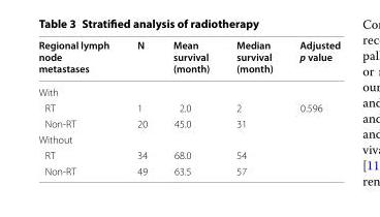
<table><thead><tr><td>Regional lymph node metastases</td><td>N</td><td>Mean survival (month)</td><td>Median survival (month)</td><td>Adjusted p value</td></tr></thead><tbody><tr><td colspan="5">With</td></tr><tr><td>RT</td><td>1</td><td>2.0</td><td>2</td><td rowspan="5">0.596</td></tr><tr><td>Non-RT</td><td>20</td><td>45.0</td><td>31</td></tr><tr><td colspan="4">Without</td></tr><tr><td>RT</td><td>34</td><td>68.0</td><td>54</td></tr><tr><td>Non-RT</td><td>49</td><td>63.5</td><td>57</td></tr></tbody></table>